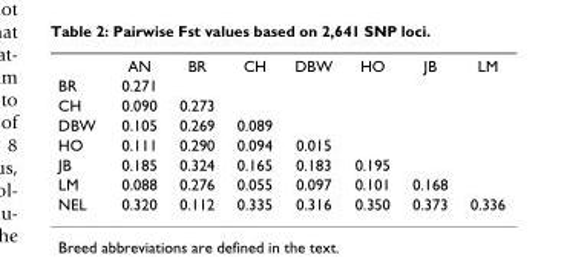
<table><thead><tr><td></td><td>AN</td><td>BR</td><td>CH</td><td>DBW</td><td>HO</td><td>JB</td><td>LM</td></tr></thead><tbody><tr><td>BR</td><td>0.271</td><td></td><td></td><td></td><td></td><td></td><td></td></tr><tr><td>CH</td><td>0.090</td><td>0.273</td><td></td><td></td><td></td><td></td><td></td></tr><tr><td>DBW</td><td>0.105</td><td>0.269</td><td>0.089</td><td></td><td></td><td></td><td></td></tr><tr><td>HO</td><td>0.111</td><td>0.290</td><td>0.094</td><td>0.015</td><td></td><td></td><td></td></tr><tr><td>JB</td><td>0.185</td><td>0.324</td><td>0.165</td><td>0.183</td><td>0.195</td><td></td><td></td></tr><tr><td>LM</td><td>0.088</td><td>0.276</td><td>0.055</td><td>0.097</td><td>0.101</td><td>0.168</td><td></td></tr><tr><td>NEL</td><td>0.320</td><td>0.112</td><td>0.335</td><td>0.316</td><td>0.350</td><td>0.373</td><td>0.336</td></tr></tbody></table>